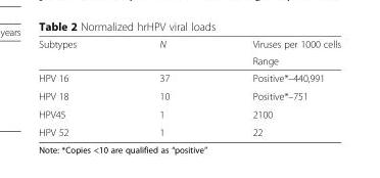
<table><thead><tr><td rowspan="2">Subtypes</td><td rowspan="2">N</td><td rowspan="2">Viruses per 1000 cells Range</td></tr><tr></tr></thead><tbody><tr><td>HPV 16</td><td>37</td><td>Positive*–440,991</td></tr><tr><td>HPV 18</td><td>10</td><td>Positive*–751</td></tr><tr><td>HPV45</td><td>1</td><td>2100</td></tr><tr><td>HPV 52</td><td>1</td><td>22</td></tr></tbody></table>